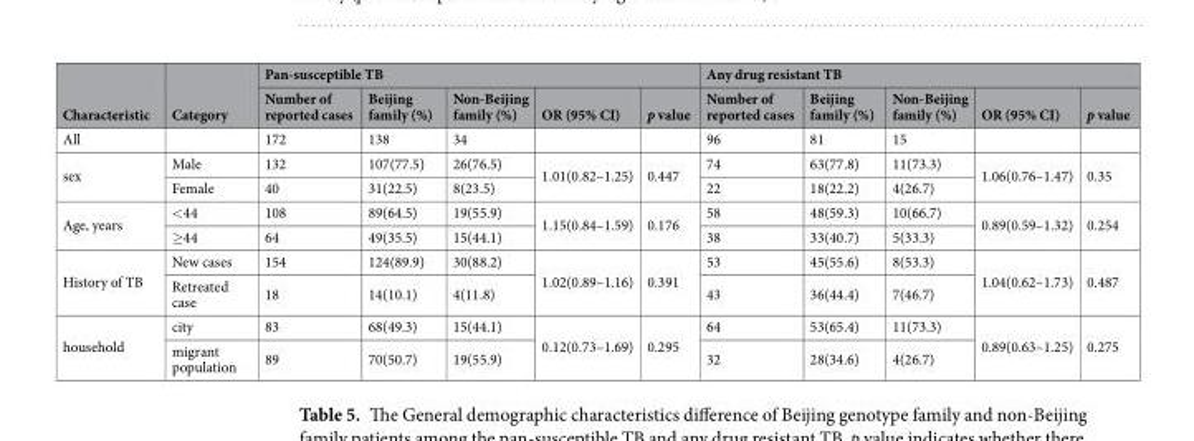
<table><thead><tr><td rowspan="2">Characteristic</td><td rowspan="2">Category</td><td colspan="5">Pan-susceptible TB</td><td colspan="5">Any drug resistant TB</td></tr><tr><td>Number of reported cases</td><td>Beijing family (%)</td><td>Non-Beijing family (%)</td><td>OR (95% CI)</td><td>p value</td><td>Number of reported cases</td><td>Beijing family (%)</td><td>Non-Beijing family (%)</td><td>OR (95% CI)</td><td>p value</td></tr></thead><tbody><tr><td>All</td><td></td><td>172</td><td>138</td><td>34</td><td></td><td></td><td>96</td><td>81</td><td>15</td><td></td><td></td></tr><tr><td rowspan="2">sex</td><td>Male</td><td>132</td><td>107(77.5)</td><td>26(76.5)</td><td rowspan="2">1.01(0.82–1.25)</td><td rowspan="2">0.447</td><td>74</td><td>63(77.8)</td><td>11(73.3)</td><td rowspan="2">1.06(0.76–1.47)</td><td rowspan="2">0.35</td></tr><tr><td>Female</td><td>40</td><td>31(22.5)</td><td>8(23.5)</td><td>22</td><td>18(22.2)</td><td>4(26.7)</td></tr><tr><td rowspan="2">Age, years</td><td>&lt;44</td><td>108</td><td>89(64.5)</td><td>19(55.9)</td><td rowspan="2">1.15(0.84–1.59)</td><td rowspan="2">0.176</td><td>58</td><td>48(59.3)</td><td>10(66.7)</td><td rowspan="2">0.89(0.59–1.32)</td><td rowspan="2">0.254</td></tr><tr><td>≥44</td><td>64</td><td>49(35.5)</td><td>15(44.1)</td><td>38</td><td>33(40.7)</td><td>5(33.3)</td></tr><tr><td rowspan="2">History of TB</td><td>New cases</td><td>154</td><td>124(89.9)</td><td>30(88.2)</td><td rowspan="2">1.02(0.89–1.16)</td><td rowspan="2">0.391</td><td>53</td><td>45(55.6)</td><td>8(53.3)</td><td rowspan="2">1.04(0.62–1.73)</td><td rowspan="2">0.487</td></tr><tr><td>Retreated case</td><td>18</td><td>14(10.1)</td><td>4(11.8)</td><td>43</td><td>36(44.4)</td><td>7(46.7)</td></tr><tr><td rowspan="2">household</td><td>city</td><td>83</td><td>68(49.3)</td><td>15(44.1)</td><td rowspan="2">0.12(0.73–1.69)</td><td rowspan="2">0.295</td><td>64</td><td>53(65.4)</td><td>11(73.3)</td><td rowspan="2">0.89(0.63–1.25)</td><td rowspan="2">0.275</td></tr><tr><td>migrant population</td><td>89</td><td>70(50.7)</td><td>19(55.9)</td><td>32</td><td>28(34.6)</td><td>4(26.7)</td></tr></tbody></table>